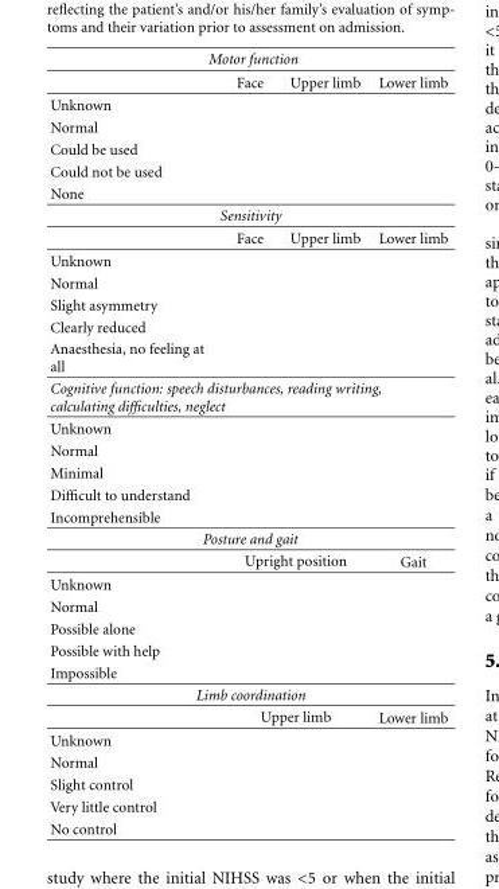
<table><thead><tr><td colspan="3">Motor function</td><td rowspan="2">Lower limb</td></tr><tr><td></td><td>Face</td><td>Upper limb</td></tr></thead><tbody><tr><td colspan="4">Unknown</td></tr><tr><td colspan="4">Normal</td></tr><tr><td colspan="4">Could be used</td></tr><tr><td colspan="4">Could not be used</td></tr><tr><td colspan="4">None</td></tr><tr><td colspan="4">Sensitivity</td></tr><tr><td></td><td>Face</td><td>Upper limb</td><td>Lower limb</td></tr><tr><td colspan="4">Unknown</td></tr><tr><td colspan="4">Normal</td></tr><tr><td colspan="4">Slight asymmetry</td></tr><tr><td colspan="4">Clearly reduced</td></tr><tr><td colspan="4">Anaesthesia, no feeling at all</td></tr><tr><td colspan="4">Cognitive function: speech disturbances, reading writing, calculating difficulties, neglect</td></tr><tr><td colspan="4">Unknown</td></tr><tr><td colspan="4">Normal</td></tr><tr><td colspan="4">Minimal</td></tr><tr><td colspan="4">Difficult to understand</td></tr><tr><td colspan="4">Incomprehensible</td></tr><tr><td colspan="4">Posture and gait</td></tr><tr><td></td><td colspan="2">Upright position</td><td>Gait</td></tr><tr><td colspan="4">Unknown</td></tr><tr><td colspan="4">Normal</td></tr><tr><td colspan="4">Possible alone</td></tr><tr><td colspan="4">Possible with help</td></tr><tr><td colspan="4">Impossible</td></tr><tr><td colspan="4">Limb coordination</td></tr><tr><td></td><td colspan="2">Upper limb</td><td>Lower limb</td></tr><tr><td colspan="4">Unknown</td></tr><tr><td colspan="4">Normal</td></tr><tr><td colspan="4">Slight control</td></tr><tr><td colspan="4">Very little control</td></tr><tr><td>No control</td><td></td><td></td><td></td></tr></tbody></table>